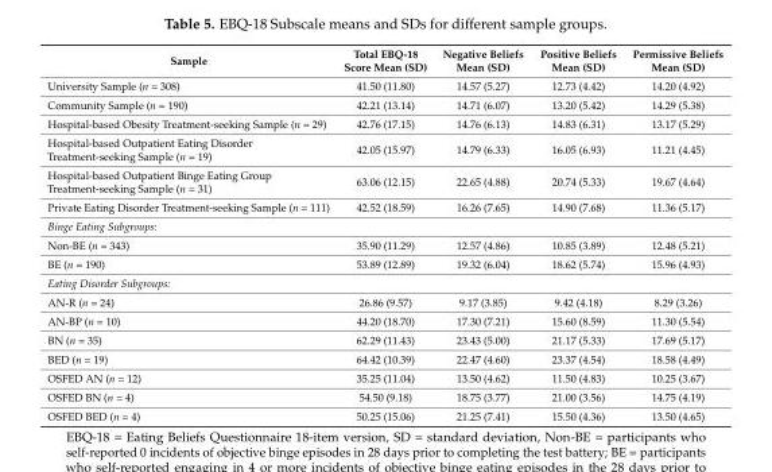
<table><thead><tr><td>Sample</td><td>Total EBQ-18 Score Mean (SD)</td><td>Negative Beliefs Mean (SD)</td><td>Positive Beliefs Mean (SD)</td><td>Permissive Beliefs Mean (SD)</td></tr></thead><tbody><tr><td>University Sample (n = 308)</td><td>41.50 (11.80)</td><td>14.57 (5.27)</td><td>12.73 (4.42)</td><td>14.20 (4.92)</td></tr><tr><td>Community Sample (n = 190)</td><td>42.21 (13.14)</td><td>14.71 (6.07)</td><td>13.20 (5.42)</td><td>14.29 (5.38)</td></tr><tr><td>Hospital-based Obesity Treatment-seeking Sample (n = 29)</td><td>42.76 (17.15)</td><td>14.76 (6.13)</td><td>14.83 (6.31)</td><td>13.17 (5.29)</td></tr><tr><td>Hospital-based Outpatient Eating Disorder Treatment-seeking Sample (n = 19)</td><td>42.05 (15.97)</td><td>14.79 (6.33)</td><td>16.05 (6.93)</td><td>11.21 (4.45)</td></tr><tr><td>Hospital-based Outpatient Binge Eating Group Treatment-seeking Sample (n = 31)</td><td>63.06 (12.15)</td><td>22.65 (4.88)</td><td>20.74 (5.33)</td><td>19.67 (4.64)</td></tr><tr><td>Private Eating Disorder Treatment-seeking Sample (n = 111)</td><td>42.52 (18.59)</td><td>16.26 (7.65)</td><td>14.90 (7.68)</td><td>11.36 (5.17)</td></tr><tr><td colspan="5">Binge Eating Subgroups:</td></tr><tr><td>Non-BE (n = 343)</td><td>35.90 (11.29)</td><td>12.57 (4.86)</td><td>10.85 (3.89)</td><td>12.48 (5.21)</td></tr><tr><td>BE (n = 190)</td><td>53.89 (12.89)</td><td>19.32 (6.04)</td><td>18.62 (5.74)</td><td>15.96 (4.93)</td></tr><tr><td colspan="5">Eating Disorder Subgroups:</td></tr><tr><td>AN-R (n = 24)</td><td>26.86 (9.57)</td><td>9.17 (3.85)</td><td>9.42 (4.18)</td><td>8.29 (3.26)</td></tr><tr><td>AN-BP (n = 10)</td><td>44.20 (18.70)</td><td>17.30 (7.21)</td><td>15.60 (8.59)</td><td>11.30 (5.54)</td></tr><tr><td>BN (n = 35)</td><td>62.29 (11.43)</td><td>23.43 (5.00)</td><td>21.17 (5.33)</td><td>17.69 (5.17)</td></tr><tr><td>BED (n = 19)</td><td>64.42 (10.39)</td><td>22.47 (4.60)</td><td>23.37 (4.54)</td><td>18.58 (4.49)</td></tr><tr><td>OSFED AN (n = 12)</td><td>35.25 (11.04)</td><td>13.50 (4.62)</td><td>11.50 (4.83)</td><td>10.25 (3.67)</td></tr><tr><td>OSFED BN (n = 4)</td><td>54.50 (9.18)</td><td>18.75 (3.77)</td><td>21.00 (3.56)</td><td>14.75 (4.19)</td></tr><tr><td>OSFED BED (n = 4)</td><td>50.25 (15.06)</td><td>21.25 (7.41)</td><td>15.50 (4.36)</td><td>13.50 (4.65)</td></tr></tbody></table>